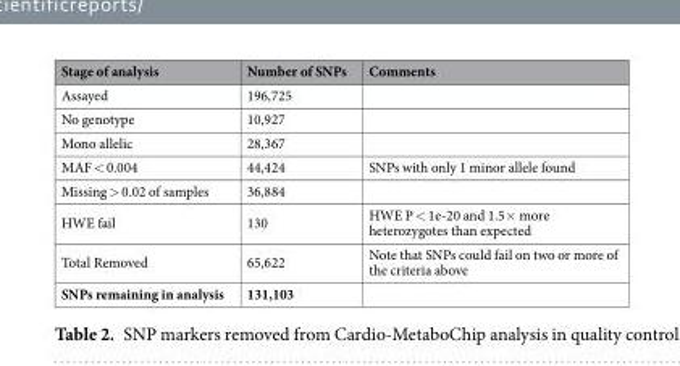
<table><thead><tr><td>Stage of analysis</td><td>Number of SNPs</td><td>Comments</td></tr></thead><tbody><tr><td>Assayed</td><td>196,725</td><td></td></tr><tr><td>No genotype</td><td>10,927</td><td></td></tr><tr><td>Mono allelic</td><td>28,367</td><td></td></tr><tr><td>MAF &lt; 0.004</td><td>44,424</td><td>SNPs with only 1 minor allele found</td></tr><tr><td>Missing &gt; 0.02 of samples</td><td>36,884</td><td></td></tr><tr><td>HWE fail</td><td>130</td><td>HWE P &lt; 1e-20 and 1.5× more heterozygotes than expected</td></tr><tr><td>Total Removed</td><td>65,622</td><td>Note that SNPs could fail on two or more of the criteria above</td></tr><tr><td>SNPs remaining in analysis</td><td>131,103</td><td></td></tr></tbody></table>